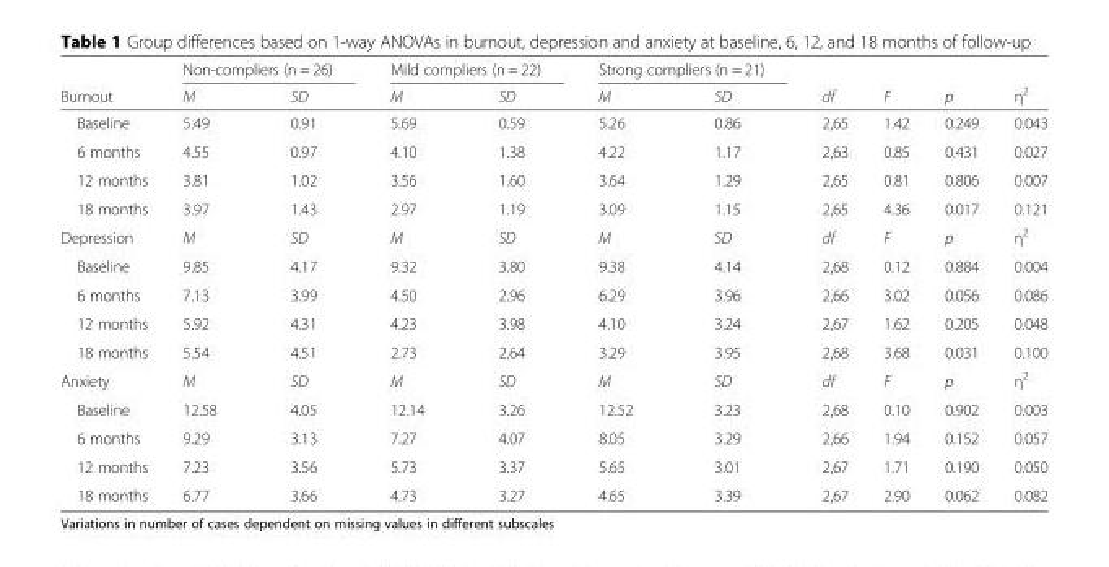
<table><thead><tr><td rowspan="2">Burnout</td><td colspan="2">Non-compliers (n = 26)</td><td colspan="2">Mild compliers (n = 22)</td><td colspan="2">Strong compliers (n = 21)</td><td rowspan="2">df</td><td rowspan="2">F</td><td rowspan="2">p</td><td rowspan="2">η<sup>2</sup></td></tr><tr><td>M</td><td>SD</td><td>M</td><td>SD</td><td>M</td><td>SD</td></tr></thead><tbody><tr><td>Baseline</td><td>5.49</td><td>0.91</td><td>5.69</td><td>0.59</td><td>5.26</td><td>0.86</td><td>2,65</td><td>1.42</td><td>0.249</td><td>0.043</td></tr><tr><td>6 months</td><td>4.55</td><td>0.97</td><td>4.10</td><td>1.38</td><td>4.22</td><td>1.17</td><td>2,63</td><td>0.85</td><td>0.431</td><td>0.027</td></tr><tr><td>12 months</td><td>3.81</td><td>1.02</td><td>3.56</td><td>1.60</td><td>3.64</td><td>1.29</td><td>2,65</td><td>0.81</td><td>0.806</td><td>0.007</td></tr><tr><td>18 months</td><td>3.97</td><td>1.43</td><td>2.97</td><td>1.19</td><td>3.09</td><td>1.15</td><td>2,65</td><td>4.36</td><td>0.017</td><td>0.121</td></tr><tr><td>Depression</td><td>M</td><td>SD</td><td>M</td><td>SD</td><td>M</td><td>SD</td><td>df</td><td>F</td><td>p</td><td>η<sup>2</sup></td></tr><tr><td>Baseline</td><td>9.85</td><td>4.17</td><td>9.32</td><td>3.80</td><td>9.38</td><td>4.14</td><td>2,68</td><td>0.12</td><td>0.884</td><td>0.004</td></tr><tr><td>6 months</td><td>7.13</td><td>3.99</td><td>4.50</td><td>2.96</td><td>6.29</td><td>3.96</td><td>2,66</td><td>3.02</td><td>0.056</td><td>0.086</td></tr><tr><td>12 months</td><td>5.92</td><td>4.31</td><td>4.23</td><td>3.98</td><td>4.10</td><td>3.24</td><td>2,67</td><td>1.62</td><td>0.205</td><td>0.048</td></tr><tr><td>18 months</td><td>5.54</td><td>4.51</td><td>2.73</td><td>2.64</td><td>3.29</td><td>3.95</td><td>2,68</td><td>3.68</td><td>0.031</td><td>0.100</td></tr><tr><td>Anxiety</td><td>M</td><td>SD</td><td>M</td><td>SD</td><td>M</td><td>SD</td><td>df</td><td>F</td><td>p</td><td>η<sup>2</sup></td></tr><tr><td>Baseline</td><td>12.58</td><td>4.05</td><td>12.14</td><td>3.26</td><td>12.52</td><td>3.23</td><td>2,68</td><td>0.10</td><td>0.902</td><td>0.003</td></tr><tr><td>6 months</td><td>9.29</td><td>3.13</td><td>7.27</td><td>4.07</td><td>8.05</td><td>3.29</td><td>2,66</td><td>1.94</td><td>0.152</td><td>0.057</td></tr><tr><td>12 months</td><td>7.23</td><td>3.56</td><td>5.73</td><td>3.37</td><td>5.65</td><td>3.01</td><td>2,67</td><td>1.71</td><td>0.190</td><td>0.050</td></tr><tr><td>18 months</td><td>6.77</td><td>3.66</td><td>4.73</td><td>3.27</td><td>4.65</td><td>3.39</td><td>2,67</td><td>2.90</td><td>0.062</td><td>0.082</td></tr></tbody></table>